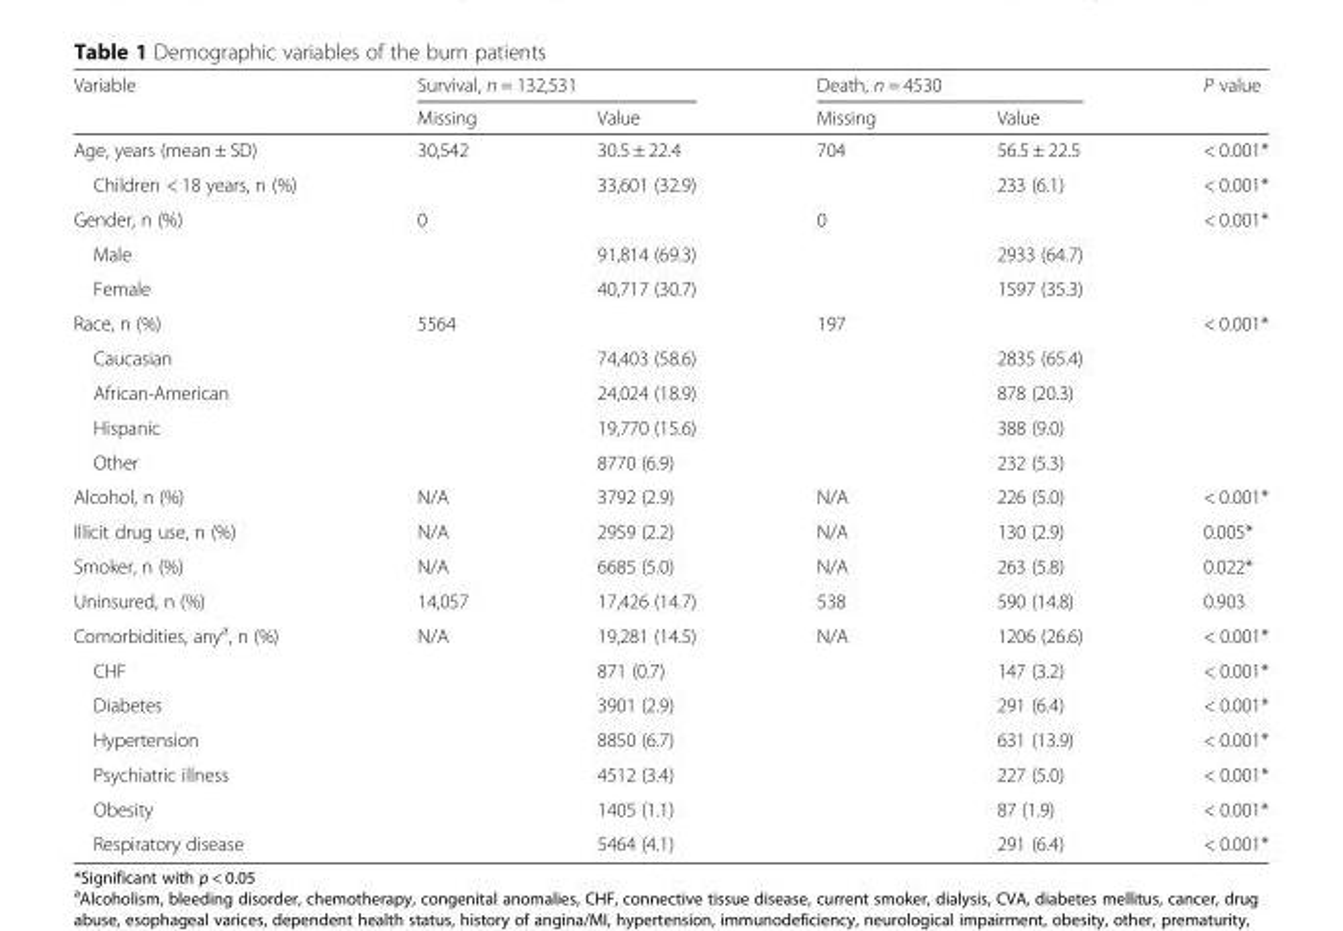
<table><thead><tr><td rowspan="2">Variable</td><td colspan="2">Survival, n = 132,531</td><td colspan="2">Death, n = 4530</td><td rowspan="2">P value</td></tr><tr><td>Missing</td><td>Value</td><td>Missing</td><td>Value</td></tr></thead><tbody><tr><td>Age, years (mean ± SD)</td><td rowspan="2">30,542</td><td>30.5 ± 22.4</td><td rowspan="2">704</td><td>56.5 ± 22.5</td><td>&lt; 0.001*</td></tr><tr><td>Children &lt; 18 years, n (%)</td><td>33,601 (32.9)</td><td>233 (6.1)</td><td>&lt; 0.001*</td></tr><tr><td>Gender, n (%)</td><td>0</td><td></td><td>0</td><td></td><td>&lt; 0.001*</td></tr><tr><td>Male</td><td></td><td>91,814 (69.3)</td><td></td><td>2933 (64.7)</td><td></td></tr><tr><td>Female</td><td></td><td>40,717 (30.7)</td><td></td><td>1597 (35.3)</td><td></td></tr><tr><td>Race, n (%)</td><td>5564</td><td></td><td>197</td><td></td><td>&lt; 0.001*</td></tr><tr><td>Caucasian</td><td></td><td>74,403 (58.6)</td><td></td><td>2835 (65.4)</td><td></td></tr><tr><td>African-American</td><td></td><td>24,024 (18.9)</td><td></td><td>878 (20.3)</td><td></td></tr><tr><td>Hispanic</td><td></td><td>19,770 (15.6)</td><td></td><td>388 (9.0)</td><td></td></tr><tr><td>Other</td><td></td><td>8770 (6.9)</td><td></td><td>232 (5.3)</td><td></td></tr><tr><td>Alcohol, n (%)</td><td>N/A</td><td>3792 (2.9)</td><td>N/A</td><td>226 (5.0)</td><td>&lt; 0.001*</td></tr><tr><td>Illicit drug use, n (%)</td><td>N/A</td><td>2959 (2.2)</td><td>N/A</td><td>130 (2.9)</td><td>0.005*</td></tr><tr><td>Smoker, n (%)</td><td>N/A</td><td>6685 (5.0)</td><td>N/A</td><td>263 (5.8)</td><td>0.022*</td></tr><tr><td>Uninsured, n (%)</td><td>14,057</td><td>17,426 (14.7)</td><td>538</td><td>590 (14.8)</td><td>0.903</td></tr><tr><td>Comorbidities, any<sup>a</sup>, n (%)</td><td>N/A</td><td>19,281 (14.5)</td><td>N/A</td><td>1206 (26.6)</td><td>&lt; 0.001*</td></tr><tr><td>CHF</td><td></td><td>871 (0.7)</td><td></td><td>147 (3.2)</td><td>&lt; 0.001*</td></tr><tr><td>Diabetes</td><td></td><td>3901 (2.9)</td><td></td><td>291 (6.4)</td><td>&lt; 0.001*</td></tr><tr><td>Hypertension</td><td></td><td>8850 (6.7)</td><td></td><td>631 (13.9)</td><td>&lt; 0.001*</td></tr><tr><td>Psychiatric illness</td><td></td><td>4512 (3.4)</td><td></td><td>227 (5.0)</td><td>&lt; 0.001*</td></tr><tr><td>Obesity</td><td></td><td>1405 (1.1)</td><td></td><td>87 (1.9)</td><td>&lt; 0.001*</td></tr><tr><td>Respiratory disease</td><td></td><td>5464 (4.1)</td><td></td><td>291 (6.4)</td><td>&lt; 0.001*</td></tr></tbody></table>